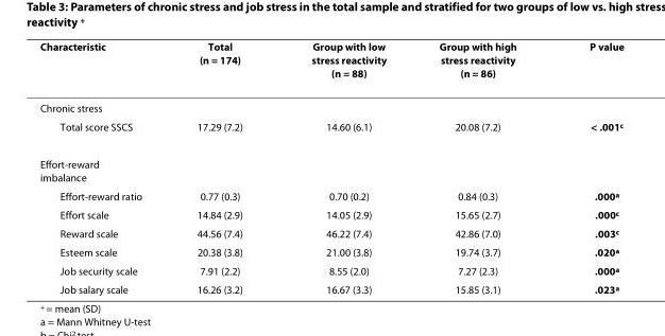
<table><thead><tr><td>Characteristic</td><td>Total (n = 174)</td><td>Group with low stress reactivity (n = 88)</td><td>Group with high stress reactivity (n = 86)</td><td>P value</td></tr></thead><tbody><tr><td colspan="5">Chronic stress</td></tr><tr><td>Total score SSCS</td><td>17.29 (7.2)</td><td>14.60 (6.1)</td><td>20.08 (7.2)</td><td>&lt; .001<sup>c</sup></td></tr><tr><td colspan="5">Effort-reward imbalance</td></tr><tr><td>Effort-reward ratio</td><td>0.77 (0.3)</td><td>0.70 (0.2)</td><td>0.84 (0.3)</td><td>.000<sup>a</sup></td></tr><tr><td>Effort scale</td><td>14.84 (2.9)</td><td>14.05 (2.9)</td><td>15.65 (2.7)</td><td>.000<sup>c</sup></td></tr><tr><td>Reward scale</td><td>44.56 (7.4)</td><td>46.22 (7.4)</td><td>42.86 (7.0)</td><td>.003<sup>c</sup></td></tr><tr><td>Esteem scale</td><td>20.38 (3.8)</td><td>21.00 (3.8)</td><td>19.74 (3.7)</td><td>.020<sup>a</sup></td></tr><tr><td>Job security scale</td><td>7.91 (2.2)</td><td>8.55 (2.0)</td><td>7.27 (2.3)</td><td>.000<sup>a</sup></td></tr><tr><td>Job salary scale</td><td>16.26 (3.2)</td><td>16.67 (3.3)</td><td>15.85 (3.1)</td><td>.023<sup>a</sup></td></tr></tbody></table>